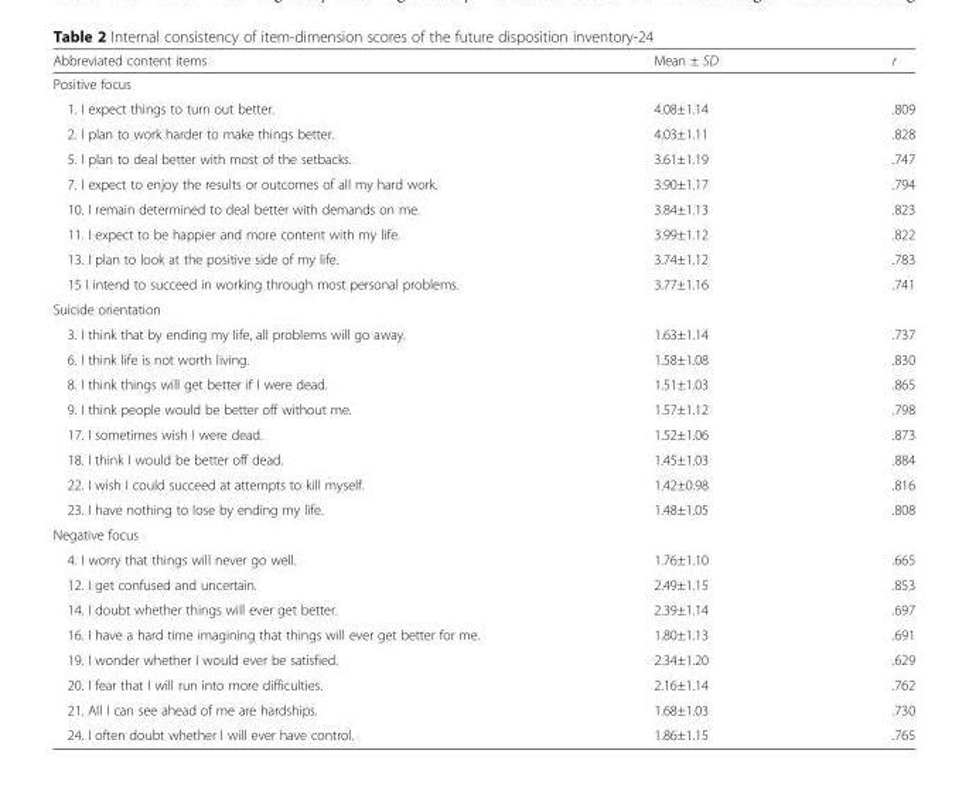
<table><thead><tr><td>Abbreviated content items</td><td>Mean ± SD</td><td>r</td></tr></thead><tbody><tr><td colspan="3">Positive focus</td></tr><tr><td>1. I expect things to turn out better.</td><td>4.08±1.14</td><td>.809</td></tr><tr><td>2. I plan to work harder to make things better.</td><td>4.03±1.11</td><td>.828</td></tr><tr><td>5. I plan to deal better with most of the setbacks.</td><td>3.61±1.19</td><td>.747</td></tr><tr><td>7. I expect to enjoy the results or outcomes of all my hard work.</td><td>3.90±1.17</td><td>.794</td></tr><tr><td>10. I remain determined to deal better with demands on me.</td><td>3.84±1.13</td><td>.823</td></tr><tr><td>11. I expect to be happier and more content with my life.</td><td>3.99±1.12</td><td>.822</td></tr><tr><td>13. I plan to look at the positive side of my life.</td><td>3.74±1.12</td><td>.783</td></tr><tr><td>15 I intend to succeed in working through most personal problems.</td><td>3.77±1.16</td><td>.741</td></tr><tr><td colspan="3">Suicide orientation</td></tr><tr><td>3. I think that by ending my life, all problems will go away.</td><td>1.63±1.14</td><td>.737</td></tr><tr><td>6. I think life is not worth living.</td><td>1.58±1.08</td><td>.830</td></tr><tr><td>8. I think things will get better if I were dead.</td><td>1.51±1.03</td><td>.865</td></tr><tr><td>9. I think people would be better off without me.</td><td>1.57±1.12</td><td>.798</td></tr><tr><td>17. I sometimes wish I were dead.</td><td>1.52±1.06</td><td>.873</td></tr><tr><td>18. I think I would be better off dead.</td><td>1.45±1.03</td><td>.884</td></tr><tr><td>22. I wish I could succeed at attempts to kill myself.</td><td>1.42±0.98</td><td>.816</td></tr><tr><td>23. I have nothing to lose by ending my life.</td><td>1.48±1.05</td><td>.808</td></tr><tr><td colspan="3">Negative focus</td></tr><tr><td>4. I worry that things will never go well.</td><td>1.76±1.10</td><td>.665</td></tr><tr><td>12. I get confused and uncertain.</td><td>2.49±1.15</td><td>.853</td></tr><tr><td>14. I doubt whether things will ever get better.</td><td>2.39±1.14</td><td>.697</td></tr><tr><td>16. I have a hard time imagining that things will ever get better for me.</td><td>1.80±1.13</td><td>.691</td></tr><tr><td>19. I wonder whether I would ever be satisfied.</td><td>2.34±1.20</td><td>.629</td></tr><tr><td>20. I fear that I will run into more difficulties.</td><td>2.16±1.14</td><td>.762</td></tr><tr><td>21. All I can see ahead of me are hardships.</td><td>1.68±1.03</td><td>.730</td></tr><tr><td>24. I often doubt whether I will ever have control.</td><td>1.86±1.15</td><td>.765</td></tr></tbody></table>